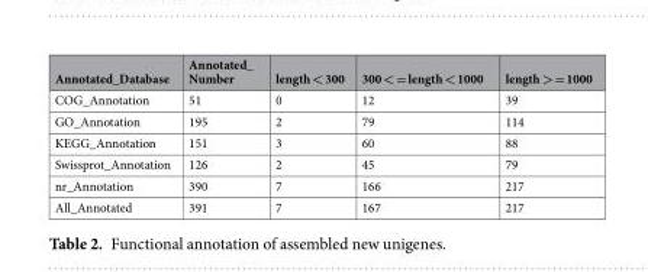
<table><thead><tr><td>Annotated_Database</td><td>Annotated_ Number</td><td>length &lt; 300</td><td>300 &lt; = length &lt; 1000</td><td>length &gt; = 1000</td></tr></thead><tbody><tr><td>COG_Annotation</td><td>51</td><td>0</td><td>12</td><td>39</td></tr><tr><td>GO_Annotation</td><td>195</td><td>2</td><td>79</td><td>114</td></tr><tr><td>KEGG_Annotation</td><td>151</td><td>3</td><td>60</td><td>88</td></tr><tr><td>Swissprot_Annotation</td><td>126</td><td>2</td><td>45</td><td>79</td></tr><tr><td>nr_Annotation</td><td>390</td><td>7</td><td>166</td><td>217</td></tr><tr><td>All_Annotated</td><td>391</td><td>7</td><td>167</td><td>217</td></tr></tbody></table>